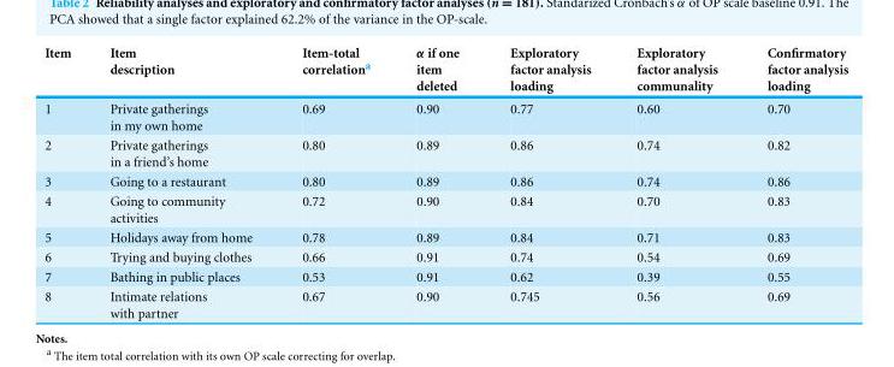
<table><thead><tr><td>Item</td><td>Item description</td><td>Item-total correlation<sup>a</sup></td><td>α if one item deleted</td><td>Exploratory factor analysis loading</td><td>Exploratory factor analysis communality</td><td>Confirmatory factor analysis loading</td></tr></thead><tbody><tr><td>1</td><td>Private gatherings in my own home</td><td>0.69</td><td>0.90</td><td>0.77</td><td>0.60</td><td>0.70</td></tr><tr><td>2</td><td>Private gatherings in a friend’s home</td><td>0.80</td><td>0.89</td><td>0.86</td><td>0.74</td><td>0.82</td></tr><tr><td>3</td><td>Going to a restaurant</td><td>0.80</td><td>0.89</td><td>0.86</td><td>0.74</td><td>0.86</td></tr><tr><td>4</td><td>Going to community activities</td><td>0.72</td><td>0.90</td><td>0.84</td><td>0.70</td><td>0.83</td></tr><tr><td>5</td><td>Holidays away from home</td><td>0.78</td><td>0.89</td><td>0.84</td><td>0.71</td><td>0.83</td></tr><tr><td>6</td><td>Trying and buying clothes</td><td>0.66</td><td>0.91</td><td>0.74</td><td>0.54</td><td>0.69</td></tr><tr><td>7</td><td>Bathing in public places</td><td>0.53</td><td>0.91</td><td>0.62</td><td>0.39</td><td>0.55</td></tr><tr><td>8</td><td>Intimate relations with partner</td><td>0.67</td><td>0.90</td><td>0.745</td><td>0.56</td><td>0.69</td></tr></tbody></table>